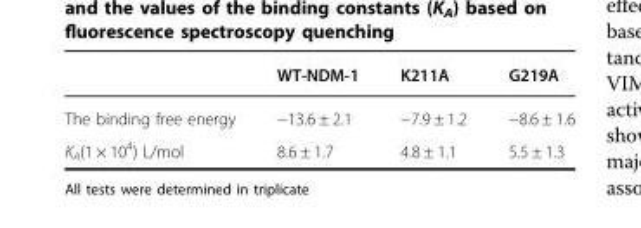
<table><thead><tr><td></td><td>WT-NDM-1</td><td>K211A</td><td>G219A</td></tr></thead><tbody><tr><td>The binding free energy</td><td>−13.6 ± 2.1</td><td>−7.9 ± 1.2</td><td>−8.6 ± 1.6</td></tr><tr><td>K<sub>A</sub>(1 × 10<sup>4</sup>) L/mol</td><td>8.6 ± 1.7</td><td>4.8 ± 1.1</td><td>5.5 ± 1.3</td></tr></tbody></table>